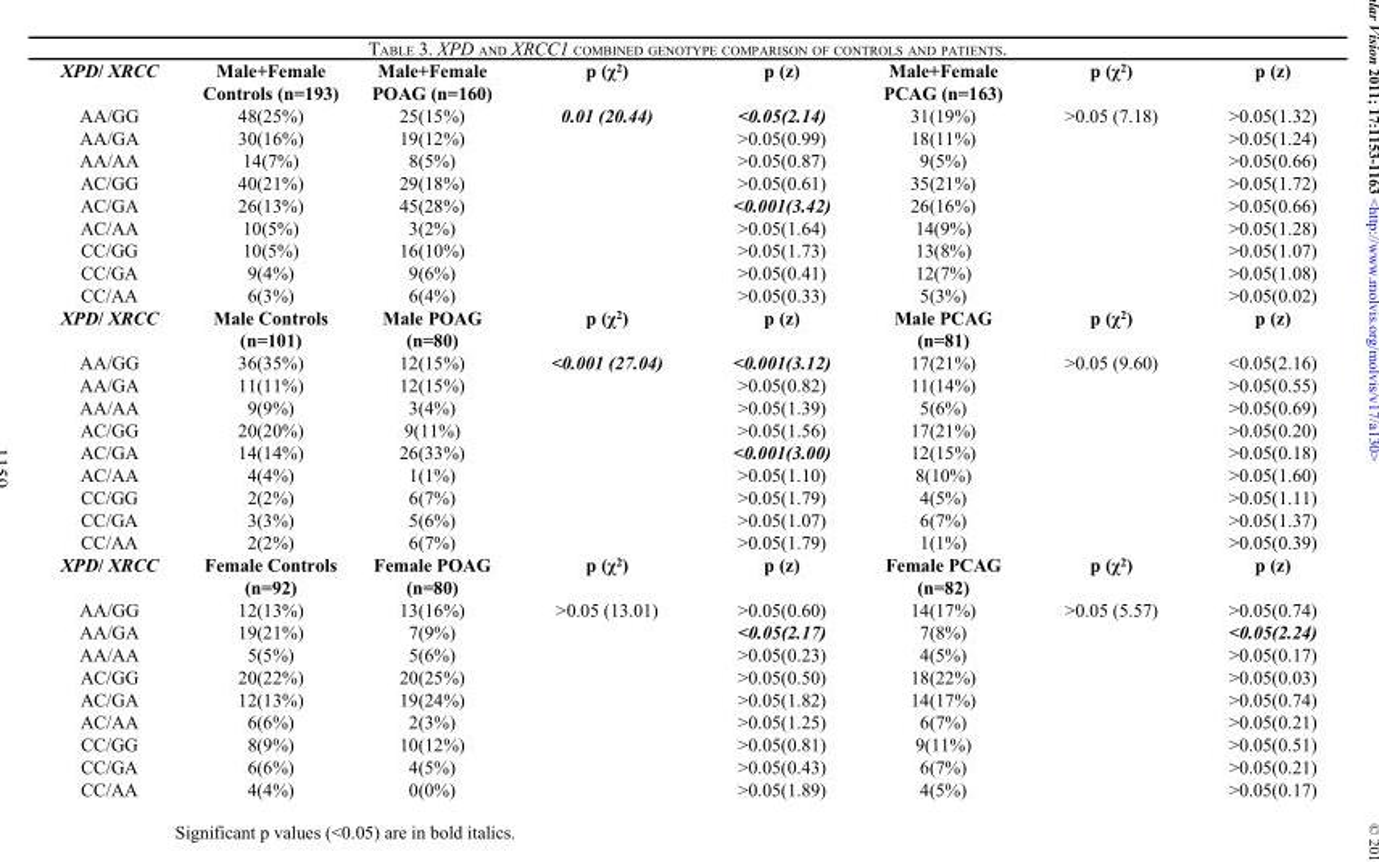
<table><thead><tr><td>XPD/ XRCC</td><td>Male+Female Controls (n=193)</td><td>Male+Female POAG (n=160)</td><td>p (χ<sup>2</sup>)</td><td>p (z)</td><td>Male+Female PCAG (n=163)</td><td>p (χ<sup>2</sup>)</td><td>p (z)</td></tr></thead><tbody><tr><td>AA/GG</td><td>48(25%)</td><td>25(15%)</td><td>0.01 (20.44)</td><td>&lt;0.05(2.14)</td><td>31(19%)</td><td>&gt;0.05 (7.18)</td><td>&gt;0.05(1.32)</td></tr><tr><td>AA/GA</td><td>30(16%)</td><td>19(12%)</td><td></td><td>&gt;0.05(0.99)</td><td>18(11%)</td><td></td><td>&gt;0.05(1.24)</td></tr><tr><td>AA/AA</td><td>14(7%)</td><td>8(5%)</td><td></td><td>&gt;0.05(0.87)</td><td>9(5%)</td><td></td><td>&gt;0.05(0.66)</td></tr><tr><td>AC/GG</td><td>40(21%)</td><td>29(18%)</td><td></td><td>&gt;0.05(0.61)</td><td>35(21%)</td><td></td><td>&gt;0.05(1.72)</td></tr><tr><td>AC/GA</td><td>26(13%)</td><td>45(28%)</td><td></td><td>&lt;0.001(3.42)</td><td>26(16%)</td><td></td><td>&gt;0.05(0.66)</td></tr><tr><td>AC/AA</td><td>10(5%)</td><td>3(2%)</td><td></td><td>&gt;0.05(1.64)</td><td>14(9%)</td><td></td><td>&gt;0.05(1.28)</td></tr><tr><td>CC/GG</td><td>10(5%)</td><td>16(10%)</td><td></td><td>&gt;0.05(1.73)</td><td>13(8%)</td><td></td><td>&gt;0.05(1.07)</td></tr><tr><td>CC/GA</td><td>9(4%)</td><td>9(6%)</td><td></td><td>&gt;0.05(0.41)</td><td>12(7%)</td><td></td><td>&gt;0.05(1.08)</td></tr><tr><td>CC/AA</td><td>6(3%)</td><td>6(4%)</td><td></td><td>&gt;0.05(0.33)</td><td>5(3%)</td><td></td><td>&gt;0.05(0.02)</td></tr><tr><td>XPD/ XRCC</td><td>Male Controls (n=101)</td><td>Male POAG (n=80)</td><td>p (χ<sup>2</sup>)</td><td>p (z)</td><td>Male PCAG (n=81)</td><td>p (χ<sup>2</sup>)</td><td>p (z)</td></tr><tr><td>AA/GG</td><td>36(35%)</td><td>12(15%)</td><td>&lt;0.001 (27.04)</td><td>&lt;0.001(3.12)</td><td>17(21%)</td><td>&gt;0.05 (9.60)</td><td>&lt;0.05(2.16)</td></tr><tr><td>AA/GA</td><td>11(11%)</td><td>12(15%)</td><td></td><td>&gt;0.05(0.82)</td><td>11(14%)</td><td></td><td>&gt;0.05(0.55)</td></tr><tr><td>AA/AA</td><td>9(9%)</td><td>3(4%)</td><td></td><td>&gt;0.05(1.39)</td><td>5(6%)</td><td></td><td>&gt;0.05(0.69)</td></tr><tr><td>AC/GG</td><td>20(20%)</td><td>9(11%)</td><td></td><td>&gt;0.05(1.56)</td><td>17(21%)</td><td></td><td>&gt;0.05(0.20)</td></tr><tr><td>AC/GA</td><td>14(14%)</td><td>26(33%)</td><td></td><td>&lt;0.001(3.00)</td><td>12(15%)</td><td></td><td>&gt;0.05(0.18)</td></tr><tr><td>AC/AA</td><td>4(4%)</td><td>1(1%)</td><td></td><td>&gt;0.05(1.10)</td><td>8(10%)</td><td></td><td>&gt;0.05(1.60)</td></tr><tr><td>CC/GG</td><td>2(2%)</td><td>6(7%)</td><td></td><td>&gt;0.05(1.79)</td><td>4(5%)</td><td></td><td>&gt;0.05(1.11)</td></tr><tr><td>CC/GA</td><td>3(3%)</td><td>5(6%)</td><td></td><td>&gt;0.05(1.07)</td><td>6(7%)</td><td></td><td>&gt;0.05(1.37)</td></tr><tr><td>CC/AA</td><td>2(2%)</td><td>6(7%)</td><td></td><td>&gt;0.05(1.79)</td><td>1(1%)</td><td></td><td>&gt;0.05(0.39)</td></tr><tr><td>XPD/ XRCC</td><td>Female Controls (n=92)</td><td>Female POAG (n=80)</td><td>p (χ<sup>2</sup>)</td><td>p (z)</td><td>Female PCAG (n=82)</td><td>p (χ<sup>2</sup>)</td><td>p (z)</td></tr><tr><td>AA/GG</td><td>12(13%)</td><td>13(16%)</td><td>&gt;0.05 (13.01)</td><td>&gt;0.05(0.60)</td><td>14(17%)</td><td>&gt;0.05 (5.57)</td><td>&gt;0.05(0.74)</td></tr><tr><td>AA/GA</td><td>19(21%)</td><td>7(9%)</td><td></td><td>&lt;0.05(2.17)</td><td>7(8%)</td><td></td><td>&lt;0.05(2.24)</td></tr><tr><td>AA/AA</td><td>5(5%)</td><td>5(6%)</td><td></td><td>&gt;0.05(0.23)</td><td>4(5%)</td><td></td><td>&gt;0.05(0.17)</td></tr><tr><td>AC/GG</td><td>20(22%)</td><td>20(25%)</td><td></td><td>&gt;0.05(0.50)</td><td>18(22%)</td><td></td><td>&gt;0.05(0.03)</td></tr><tr><td>AC/GA</td><td>12(13%)</td><td>19(24%)</td><td></td><td>&gt;0.05(1.82)</td><td>14(17%)</td><td></td><td>&gt;0.05(0.74)</td></tr><tr><td>AC/AA</td><td>6(6%)</td><td>2(3%)</td><td></td><td>&gt;0.05(1.25)</td><td>6(7%)</td><td></td><td>&gt;0.05(0.21)</td></tr><tr><td>CC/GG</td><td>8(9%)</td><td>10(12%)</td><td></td><td>&gt;0.05(0.81)</td><td>9(11%)</td><td></td><td>&gt;0.05(0.51)</td></tr><tr><td>CC/GA</td><td>6(6%)</td><td>4(5%)</td><td></td><td>&gt;0.05(0.43)</td><td>6(7%)</td><td></td><td>&gt;0.05(0.21)</td></tr><tr><td>CC/AA</td><td>4(4%)</td><td>0(0%)</td><td></td><td>&gt;0.05(1.89)</td><td>4(5%)</td><td></td><td>&gt;0.05(0.17)</td></tr></tbody></table>